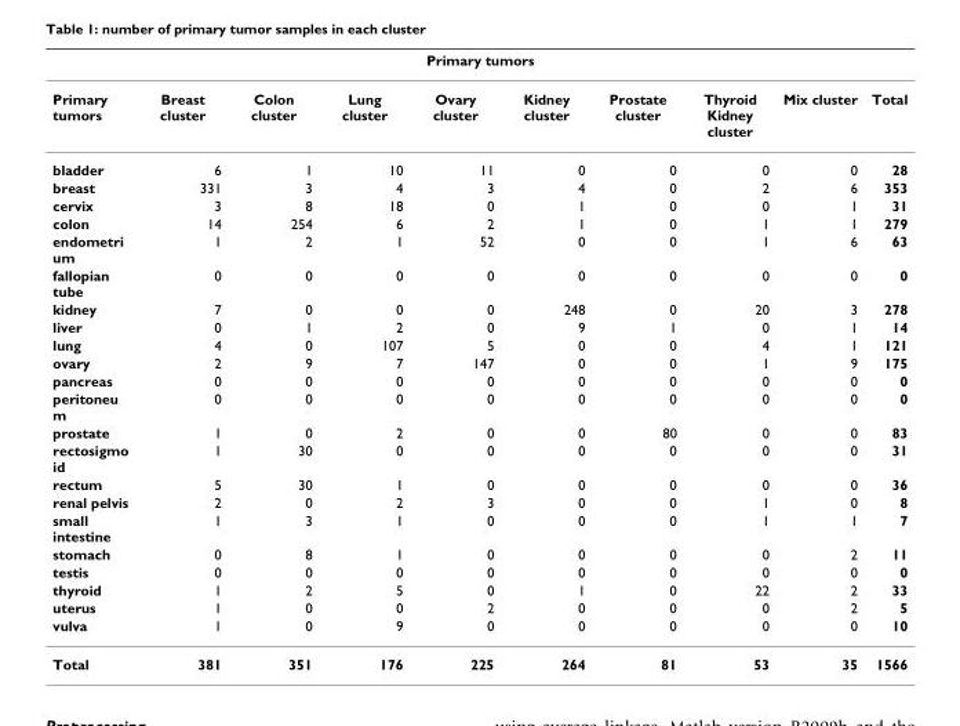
<table><thead><tr><td colspan="10">Primary tumors</td></tr><tr><td>Primary tumors</td><td>Breast cluster</td><td>Colon cluster</td><td>Lung cluster</td><td>Ovary cluster</td><td>Kidney cluster</td><td>Prostate cluster</td><td>Thyroid Kidney cluster</td><td>Mix cluster</td><td>Total</td></tr></thead><tbody><tr><td>bladder</td><td>6</td><td>1</td><td>10</td><td>11</td><td>0</td><td>0</td><td>0</td><td>0</td><td>28</td></tr><tr><td>breast</td><td>331</td><td>3</td><td>4</td><td>3</td><td>4</td><td>0</td><td>2</td><td>6</td><td>353</td></tr><tr><td>cervix</td><td>3</td><td>8</td><td>18</td><td>0</td><td>1</td><td>0</td><td>0</td><td>1</td><td>31</td></tr><tr><td>colon</td><td>14</td><td>254</td><td>6</td><td>2</td><td>1</td><td>0</td><td>1</td><td>1</td><td>279</td></tr><tr><td>endometri um</td><td>1</td><td>2</td><td>1</td><td>52</td><td>0</td><td>0</td><td>1</td><td>6</td><td>63</td></tr><tr><td>fallopian tube</td><td>0</td><td>0</td><td>0</td><td>0</td><td>0</td><td>0</td><td>0</td><td>0</td><td>0</td></tr><tr><td>kidney</td><td>7</td><td>0</td><td>0</td><td>0</td><td>248</td><td>0</td><td>20</td><td>3</td><td>278</td></tr><tr><td>liver</td><td>0</td><td>1</td><td>2</td><td>0</td><td>9</td><td>1</td><td>0</td><td>1</td><td>14</td></tr><tr><td>lung</td><td>4</td><td>0</td><td>107</td><td>5</td><td>0</td><td>0</td><td>4</td><td>1</td><td>121</td></tr><tr><td>ovary</td><td>2</td><td>9</td><td>7</td><td>147</td><td>0</td><td>0</td><td>1</td><td>9</td><td>175</td></tr><tr><td>pancreas</td><td>0</td><td>0</td><td>0</td><td>0</td><td>0</td><td>0</td><td>0</td><td>0</td><td>0</td></tr><tr><td>peritoneu m</td><td>0</td><td>0</td><td>0</td><td>0</td><td>0</td><td>0</td><td>0</td><td>0</td><td>0</td></tr><tr><td>prostate</td><td>1</td><td>0</td><td>2</td><td>0</td><td>0</td><td>80</td><td>0</td><td>0</td><td>83</td></tr><tr><td>rectosigmo id</td><td>1</td><td>30</td><td>0</td><td>0</td><td>0</td><td>0</td><td>0</td><td>0</td><td>31</td></tr><tr><td>rectum</td><td>5</td><td>30</td><td>1</td><td>0</td><td>0</td><td>0</td><td>0</td><td>0</td><td>36</td></tr><tr><td>renal pelvis</td><td>2</td><td>0</td><td>2</td><td>3</td><td>0</td><td>0</td><td>1</td><td>0</td><td>8</td></tr><tr><td>small intestine</td><td>1</td><td>3</td><td>1</td><td>0</td><td>0</td><td>0</td><td>1</td><td>1</td><td>7</td></tr><tr><td>stomach</td><td>0</td><td>8</td><td>1</td><td>0</td><td>0</td><td>0</td><td>0</td><td>2</td><td>11</td></tr><tr><td>testis</td><td>0</td><td>0</td><td>0</td><td>0</td><td>0</td><td>0</td><td>0</td><td>0</td><td>0</td></tr><tr><td>thyroid</td><td>1</td><td>2</td><td>5</td><td>0</td><td>1</td><td>0</td><td>22</td><td>2</td><td>33</td></tr><tr><td>uterus</td><td>1</td><td>0</td><td>0</td><td>2</td><td>0</td><td>0</td><td>0</td><td>2</td><td>5</td></tr><tr><td>vulva</td><td>1</td><td>0</td><td>9</td><td>0</td><td>0</td><td>0</td><td>0</td><td>0</td><td>10</td></tr><tr><td>Total</td><td>381</td><td>351</td><td>176</td><td>225</td><td>264</td><td>81</td><td>53</td><td>35</td><td>1566</td></tr></tbody></table>